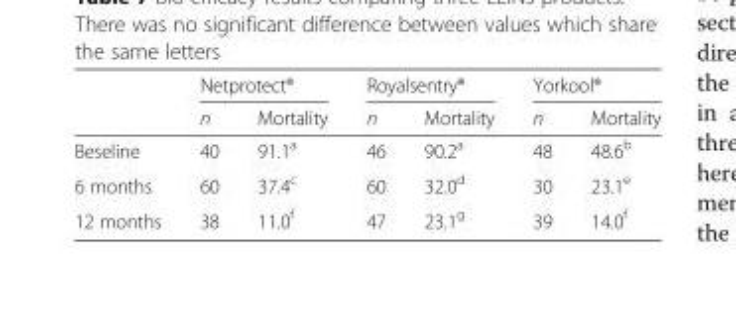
<table><thead><tr><td rowspan="2"></td><td colspan="2">Netprotect®</td><td colspan="2">Royalsentry®</td><td colspan="2">Yorkool®</td></tr><tr><td>n</td><td>Mortality</td><td>n</td><td>Mortality</td><td>n</td><td>Mortality</td></tr></thead><tbody><tr><td>Beseline</td><td>40</td><td>91.1<sup>a</sup></td><td>46</td><td>90.2<sup>a</sup></td><td>48</td><td>48.6<sup>b</sup></td></tr><tr><td>6 months</td><td>60</td><td>37.4<sup>c</sup></td><td>60</td><td>32.0<sup>d</sup></td><td>30</td><td>23.1<sup>e</sup></td></tr><tr><td>12 months</td><td>38</td><td>11.0<sup>f</sup></td><td>47</td><td>23.1<sup>g</sup></td><td>39</td><td>14.0<sup>f</sup></td></tr></tbody></table>